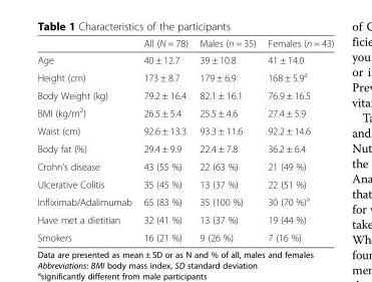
<table><thead><tr><td></td><td>All (N = 78)</td><td>Males (n = 35)</td><td>Females (n = 43)</td></tr></thead><tbody><tr><td>Age</td><td>40 ± 12.7</td><td>39 ± 10.8</td><td>41 ± 14.0</td></tr><tr><td>Height (cm)</td><td>173 ± 8.7</td><td>179 ± 6.9</td><td>168 ± 5.9<sup>a</sup></td></tr><tr><td>Body Weight (kg)</td><td>79.2 ± 16.4</td><td>82.1 ± 16.1</td><td>76.9 ± 16.5</td></tr><tr><td>BMI (kg/m<sup>2</sup>)</td><td>26.5 ± 5.4</td><td>25.5 ± 4.6</td><td>27.4 ± 5.9</td></tr><tr><td>Waist (cm)</td><td>92.6 ± 13.3</td><td>93.3 ± 11.6</td><td>92.2 ± 14.6</td></tr><tr><td>Body fat (%)</td><td>29.4 ± 9.9</td><td>22.4 ± 7.8</td><td>36.2 ± 6.4</td></tr><tr><td>Crohn’s disease</td><td>43 (55 %)</td><td>22 (63 %)</td><td>21 (49 %)</td></tr><tr><td>Ulcerative Colitis</td><td>35 (45 %)</td><td>13 (37 %)</td><td>22 (51 %)</td></tr><tr><td>Infliximab/Adalimumab</td><td>65 (83 %)</td><td>35 (100 %)</td><td>30 (70 %)<sup>a</sup></td></tr><tr><td>Have met a dietitian</td><td>32 (41 %)</td><td>13 (37 %)</td><td>19 (44 %)</td></tr><tr><td>Smokers</td><td>16 (21 %)</td><td>9 (26 %)</td><td>7 (16 %)</td></tr></tbody></table>